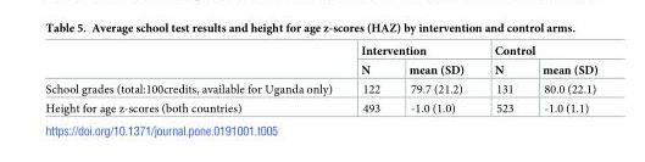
<table><thead><tr><td rowspan="2"></td><td colspan="2">Intervention</td><td colspan="2">Control</td></tr><tr><td>N</td><td>mean (SD)</td><td>N</td><td>mean (SD)</td></tr></thead><tbody><tr><td>School grades (total:100credits, available for Uganda only)</td><td>122</td><td>79.7 (21.2)</td><td>131</td><td>80.0 (22.1)</td></tr><tr><td>Height for age z-scores (both countries)</td><td>493</td><td>-1.0 (1.0)</td><td>523</td><td>-1.0 (1.1)</td></tr></tbody></table>